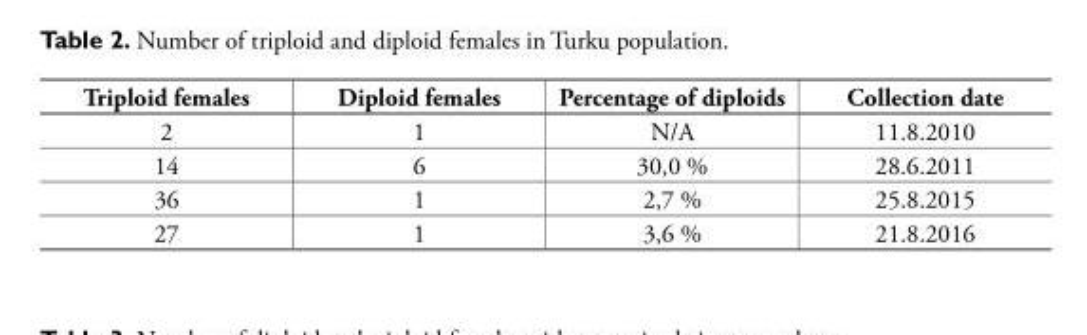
<table><thead><tr><td>Triploid females</td><td>Diploid females</td><td>Percentage of diploids</td><td>Collection date</td></tr></thead><tbody><tr><td>2</td><td>1</td><td>N/A</td><td>11.8.2010</td></tr><tr><td>14</td><td>6</td><td>30,0 %</td><td>28.6.2011</td></tr><tr><td>36</td><td>1</td><td>2,7 %</td><td>25.8.2015</td></tr><tr><td>27</td><td>1</td><td>3,6 %</td><td>21.8.2016</td></tr></tbody></table>